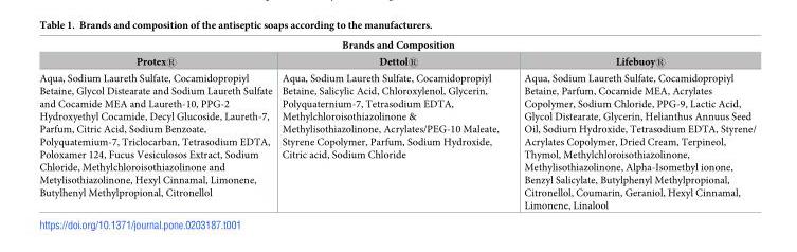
<table><thead><tr><td colspan="3">Brands and Composition</td></tr><tr><td>Protex®</td><td>Dettol®</td><td>Lifebuoy®</td></tr></thead><tbody><tr><td>Aqua, Sodium Laureth Sulfate, Cocamidopropiyl Betaine, Glycol Distearate and Sodium Laureth Sulfate and Cocamide MEA and Laureth-10, PPG-2 Hydroxyethyl Cocamide, Decyl Glucoside, Laureth-7, Parfum, Citric Acid, Sodium Benzoate, Polyquatemium-7, Triclocarban, Tetrasodium EDTA, Poloxamer 124, Fucus Vesiculosos Extract, Sodium Chloride, Methylchloroisothiazolinone and Metylisothiazolinone, Hexyl Cinnamal, Limonene, Butylhenyl Methylpropional, Citronellol</td><td>Aqua, Sodium Laureth Sulfate, Cocamidopropiyl Betaine, Salicylic Acid, Chloroxylenol, Glycerin, Polyquaternium-7, Tetrasodium EDTA, Methylchloroisothiazolinone &amp; Methylisothiazolinone, Acrylates/PEG-10 Maleate, Styrene Copolymer, Parfum, Sodium Hydroxide, Citric acid, Sodium Chloride</td><td>Aqua, Sodium Laureth Sulfate, Cocamidopropiyl Betaine, Parfum, Cocamide MEA, Acrylates Copolymer, Sodium Chloride, PPG-9, Lactic Acid, Glycol Distearate, Glycerin, Helianthus Annuus Seed Oil, Sodium Hydroxide, Tetrasodium EDTA, Styrene/ Acrylates Copolymer, Dried Cream, Terpineol, Thymol, Methylchloroisothiazolinone, Methylisothiazolinone, Alpha-Isomethyl ionone, Benzyl Salicylate, Butylphenyl Methylpropional, Citronellol, Coumarin, Geraniol, Hexyl Cinnamal, Limonene, Linalool</td></tr></tbody></table>